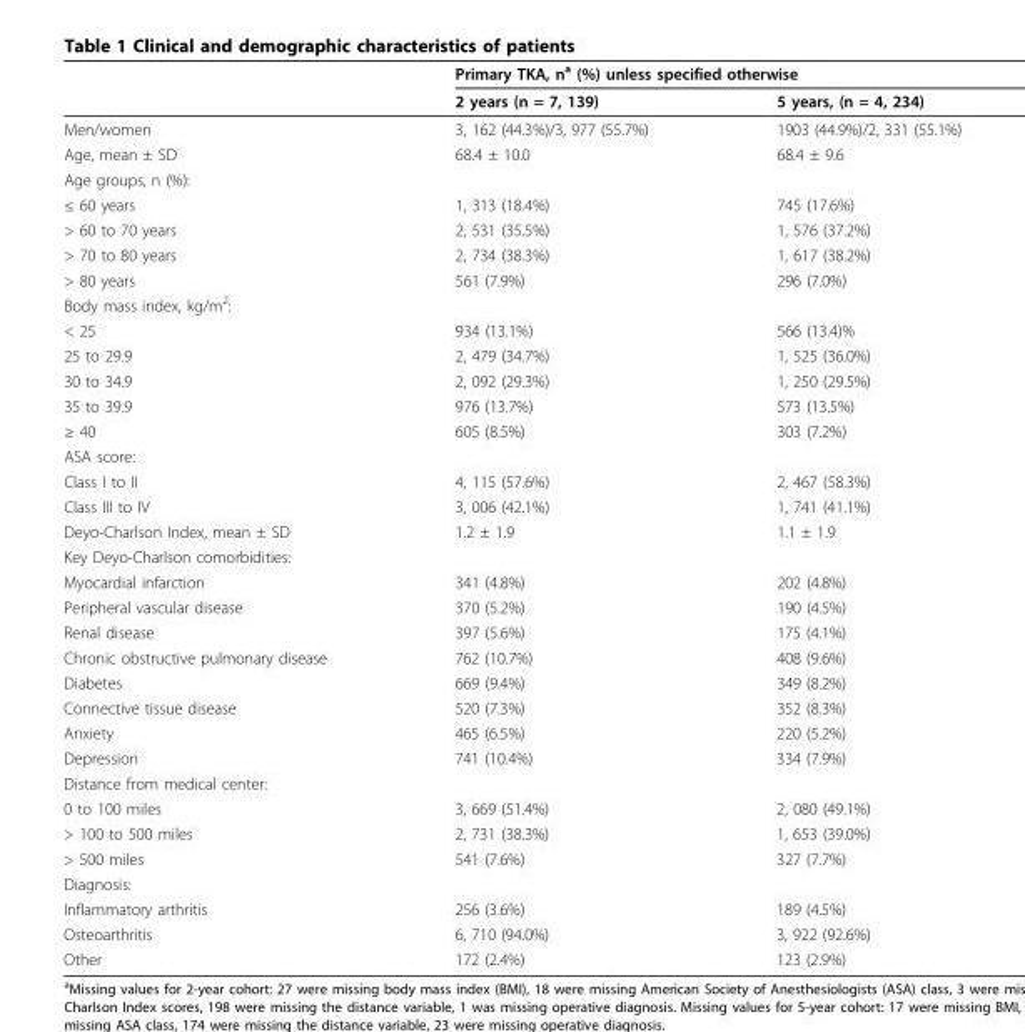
<table><thead><tr><td rowspan="2"></td><td colspan="2">Primary TKA, n<sup>a</sup> (%) unless specified otherwise</td></tr><tr><td>2 years (n = 7, 139)</td><td>5 years, (n = 4, 234)</td></tr></thead><tbody><tr><td>Men/women</td><td>3, 162 (44.3%)/3, 977 (55.7%)</td><td>1903 (44.9%)/2, 331 (55.1%)</td></tr><tr><td>Age, mean ± SD</td><td>68.4 ± 10.0</td><td>68.4 ± 9.6</td></tr><tr><td colspan="3">Age groups, n (%):</td></tr><tr><td>≤ 60 years</td><td>1, 313 (18.4%)</td><td>745 (17.6%)</td></tr><tr><td>&gt; 60 to 70 years</td><td>2, 531 (35.5%)</td><td>1, 576 (37.2%)</td></tr><tr><td>&gt; 70 to 80 years</td><td>2, 734 (38.3%)</td><td>1, 617 (38.2%)</td></tr><tr><td>&gt; 80 years</td><td>561 (7.9%)</td><td>296 (7.0%)</td></tr><tr><td colspan="3">Body mass index, kg/m<sup>2</sup>:</td></tr><tr><td>&lt; 25</td><td>934 (13.1%)</td><td>566 (13.4)%</td></tr><tr><td>25 to 29.9</td><td>2, 479 (34.7%)</td><td>1, 525 (36.0%)</td></tr><tr><td>30 to 34.9</td><td>2, 092 (29.3%)</td><td>1, 250 (29.5%)</td></tr><tr><td>35 to 39.9</td><td>976 (13.7%)</td><td>573 (13.5%)</td></tr><tr><td>≥ 40</td><td>605 (8.5%)</td><td>303 (7.2%)</td></tr><tr><td colspan="3">ASA score:</td></tr><tr><td>Class I to II</td><td>4, 115 (57.6%)</td><td>2, 467 (58.3%)</td></tr><tr><td>Class III to IV</td><td>3, 006 (42.1%)</td><td>1, 741 (41.1%)</td></tr><tr><td>Deyo-Charlson Index, mean ± SD</td><td>1.2 ± 1.9</td><td>1.1 ± 1.9</td></tr><tr><td colspan="3">Key Deyo-Charlson comorbidities:</td></tr><tr><td>Myocardial infarction</td><td>341 (4.8%)</td><td>202 (4.8%)</td></tr><tr><td>Peripheral vascular disease</td><td>370 (5.2%)</td><td>190 (4.5%)</td></tr><tr><td>Renal disease</td><td>397 (5.6%)</td><td>175 (4.1%)</td></tr><tr><td>Chronic obstructive pulmonary disease</td><td>762 (10.7%)</td><td>408 (9.6%)</td></tr><tr><td>Diabetes</td><td>669 (9.4%)</td><td>349 (8.2%)</td></tr><tr><td>Connective tissue disease</td><td>520 (7.3%)</td><td>352 (8.3%)</td></tr><tr><td>Anxiety</td><td>465 (6.5%)</td><td>220 (5.2%)</td></tr><tr><td>Depression</td><td>741 (10.4%)</td><td>334 (7.9%)</td></tr><tr><td colspan="3">Distance from medical center:</td></tr><tr><td>0 to 100 miles</td><td>3, 669 (51.4%)</td><td>2, 080 (49.1%)</td></tr><tr><td>&gt; 100 to 500 miles</td><td>2, 731 (38.3%)</td><td>1, 653 (39.0%)</td></tr><tr><td>&gt; 500 miles</td><td>541 (7.6%)</td><td>327 (7.7%)</td></tr><tr><td colspan="3">Diagnosis:</td></tr><tr><td>Inflammatory arthritis</td><td>256 (3.6%)</td><td>189 (4.5%)</td></tr><tr><td>Osteoarthritis</td><td>6, 710 (94.0%)</td><td>3, 922 (92.6%)</td></tr><tr><td>Other</td><td>172 (2.4%)</td><td>123 (2.9%)</td></tr></tbody></table>